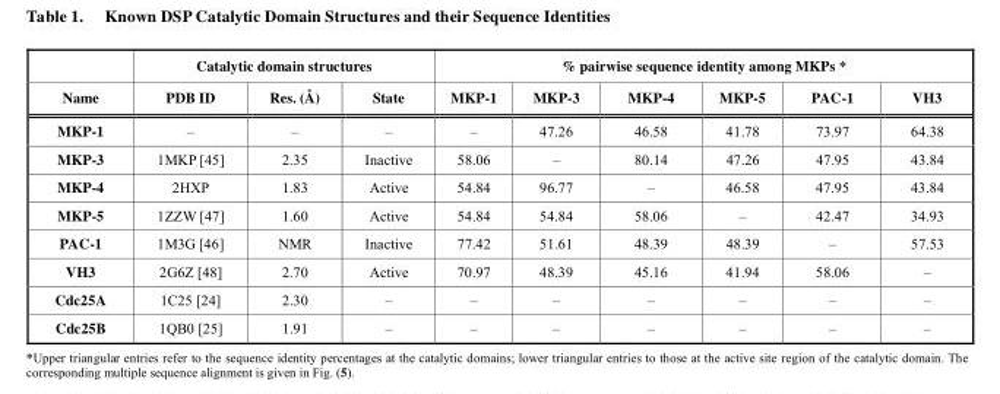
<table><thead><tr><td rowspan="2">Name</td><td colspan="3">Catalytic domain structures</td><td colspan="6">% pairwise sequence identity among MKPs *</td></tr><tr><td>PDB ID</td><td>Res. (Å)</td><td>State</td><td>MKP-1</td><td>MKP-3</td><td>MKP-4</td><td>MKP-5</td><td>PAC-1</td><td>VH3</td></tr></thead><tbody><tr><td>MKP-1</td><td>–</td><td>–</td><td>–</td><td>–</td><td>47.26</td><td>46.58</td><td>41.78</td><td>73.97</td><td>64.38</td></tr><tr><td>MKP-3</td><td>1MKP [45]</td><td>2.35</td><td>Inactive</td><td>58.06</td><td>–</td><td>80.14</td><td>47.26</td><td>47.95</td><td>43.84</td></tr><tr><td>MKP-4</td><td>2HXP</td><td>1.83</td><td>Active</td><td>54.84</td><td>96.77</td><td>–</td><td>46.58</td><td>47.95</td><td>43.84</td></tr><tr><td>MKP-5</td><td>1ZZW [47]</td><td>1.60</td><td>Active</td><td>54.84</td><td>54.84</td><td>58.06</td><td>–</td><td>42.47</td><td>34.93</td></tr><tr><td>PAC-1</td><td>1M3G [46]</td><td>NMR</td><td>Inactive</td><td>77.42</td><td>51.61</td><td>48.39</td><td>48.39</td><td>–</td><td>57.53</td></tr><tr><td>VH3</td><td>2G6Z [48]</td><td>2.70</td><td>Active</td><td>70.97</td><td>48.39</td><td>45.16</td><td>41.94</td><td>58.06</td><td>–</td></tr><tr><td>Cdc25A</td><td>1C25 [24]</td><td>2.30</td><td>–</td><td>–</td><td>–</td><td>–</td><td>–</td><td>–</td><td>–</td></tr><tr><td>Cdc25B</td><td>1QB0 [25]</td><td>1.91</td><td>–</td><td>–</td><td>–</td><td>–</td><td>–</td><td>–</td><td>–</td></tr></tbody></table>